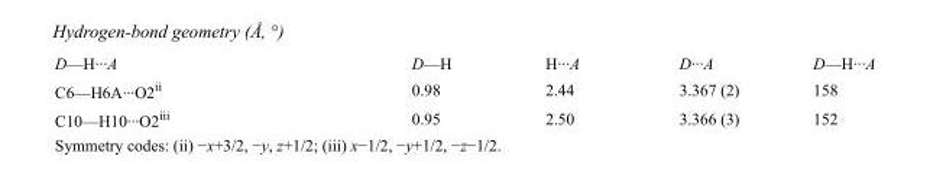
<table><tbody><tr><td>D—H···A</td><td>D—H</td><td>H···A</td><td>D···A</td><td>D—H···A</td></tr><tr><td>C6—H6A···O2<sup>ii</sup></td><td>0.98</td><td>2.44</td><td>3.367 (2)</td><td>158</td></tr><tr><td>C10—H10···O2<sup>iii</sup></td><td>0.95</td><td>2.50</td><td>3.366 (3)</td><td>152</td></tr></tbody></table>